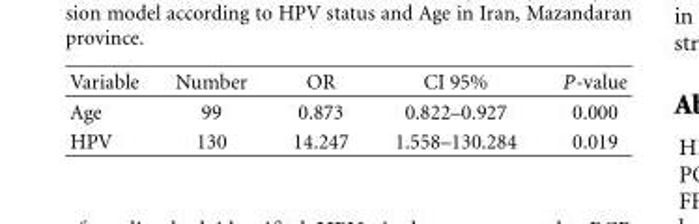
<table><thead><tr><td>Variable</td><td>Number</td><td>OR</td><td>CI 95%</td><td>P-value</td></tr></thead><tbody><tr><td>Age</td><td>99</td><td>0.873</td><td>0.822–0.927</td><td>0.000</td></tr><tr><td>HPV</td><td>130</td><td>14.247</td><td>1.558–130.284</td><td>0.019</td></tr></tbody></table>